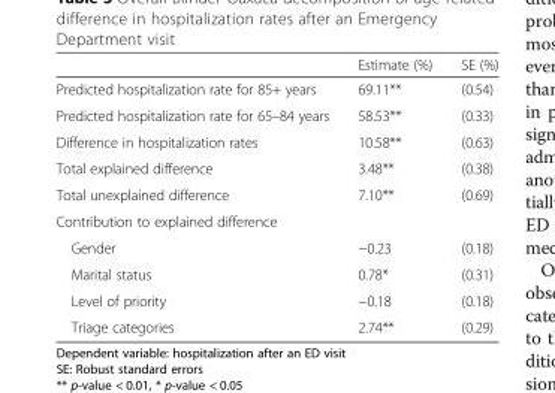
<table><thead><tr><td></td><td>Estimate (%)</td><td>SE (%)</td></tr></thead><tbody><tr><td>Predicted hospitalization rate for 85+ years</td><td>69.11**</td><td>(0.54)</td></tr><tr><td>Predicted hospitalization rate for 65–84 years</td><td>58.53**</td><td>(0.33)</td></tr><tr><td>Difference in hospitalization rates</td><td>10.58**</td><td>(0.63)</td></tr><tr><td>Total explained difference</td><td>3.48**</td><td>(0.38)</td></tr><tr><td>Total unexplained difference</td><td>7.10**</td><td>(0.69)</td></tr><tr><td colspan="3">Contribution to explained difference</td></tr><tr><td>Gender</td><td>−0.23</td><td>(0.18)</td></tr><tr><td>Marital status</td><td>0.78*</td><td>(0.31)</td></tr><tr><td>Level of priority</td><td>−0.18</td><td>(0.18)</td></tr><tr><td>Triage categories</td><td>2.74**</td><td>(0.29)</td></tr></tbody></table>